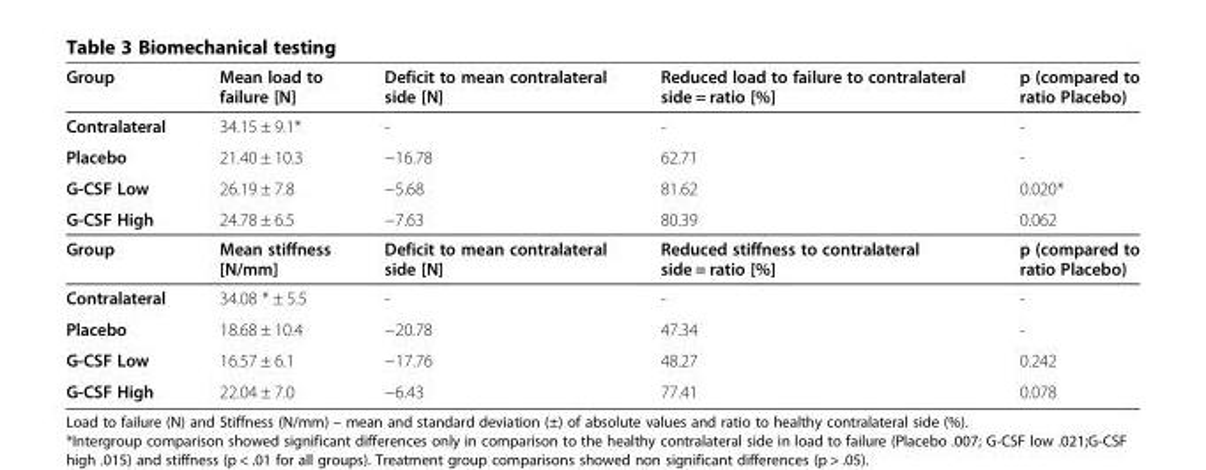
<table><thead><tr><td>Group</td><td>Mean load to failure [N]</td><td>Deficit to mean contralateral side [N]</td><td>Reduced load to failure to contralateral side = ratio [%]</td><td>p (compared to ratio Placebo)</td></tr></thead><tbody><tr><td>Contralateral</td><td>34.15 ± 9.1*</td><td>-</td><td>-</td><td>-</td></tr><tr><td>Placebo</td><td>21.40 ± 10.3</td><td>−16.78</td><td>62.71</td><td>-</td></tr><tr><td>G-CSF Low</td><td>26.19 ± 7.8</td><td>−5.68</td><td>81.62</td><td>0.020*</td></tr><tr><td>G-CSF High</td><td>24.78 ± 6.5</td><td>−7.63</td><td>80.39</td><td>0.062</td></tr><tr><td>Group</td><td>Mean stiffness [N/mm]</td><td>Deficit to mean contralateral side [N]</td><td>Reduced stiffness to contralateral side = ratio [%]</td><td>p (compared to ratio Placebo)</td></tr><tr><td>Contralateral</td><td>34.08 * ± 5.5</td><td>-</td><td>-</td><td>-</td></tr><tr><td>Placebo</td><td>18.68 ± 10.4</td><td>−20.78</td><td>47.34</td><td>-</td></tr><tr><td>G-CSF Low</td><td>16.57 ± 6.1</td><td>−17.76</td><td>48.27</td><td>0.242</td></tr><tr><td>G-CSF High</td><td>22.04 ± 7.0</td><td>−6.43</td><td>77.41</td><td>0.078</td></tr></tbody></table>